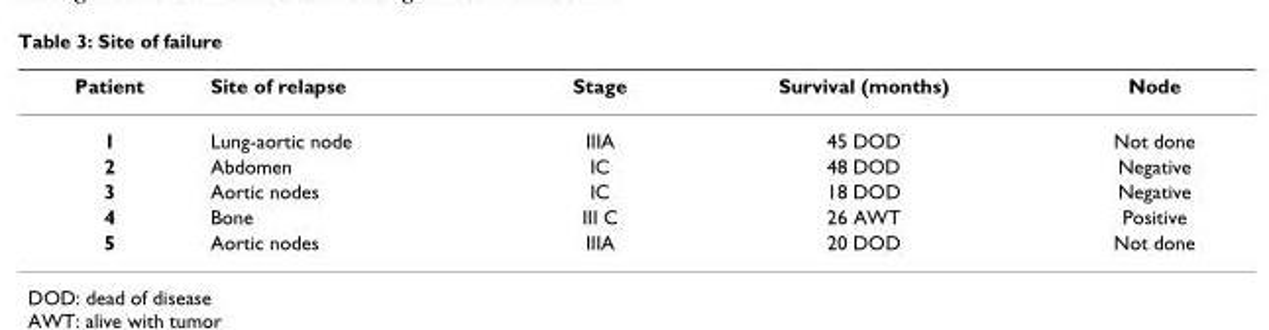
<table><thead><tr><td>Patient</td><td>Site of relapse</td><td>Stage</td><td>Survival (months)</td><td>Node</td></tr></thead><tbody><tr><td>1</td><td>Lung-aortic node</td><td>IIIA</td><td>45 DOD</td><td>Not done</td></tr><tr><td>2</td><td>Abdomen</td><td>IC</td><td>48 DOD</td><td>Negative</td></tr><tr><td>3</td><td>Aortic nodes</td><td>IC</td><td>18 DOD</td><td>Negative</td></tr><tr><td>4</td><td>Bone</td><td>III C</td><td>26 AWT</td><td>Positive</td></tr><tr><td>5</td><td>Aortic nodes</td><td>IIIA</td><td>20 DOD</td><td>Not done</td></tr></tbody></table>